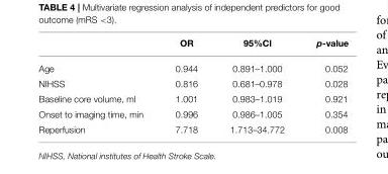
<table><thead><tr><td></td><td>OR</td><td>95%Cl</td><td>p-value</td></tr></thead><tbody><tr><td>Age</td><td>0.944</td><td>0.891–1.000</td><td>0.052</td></tr><tr><td>NIHSS</td><td>0.816</td><td>0.681–0.978</td><td>0.028</td></tr><tr><td>Baseline core volume, ml</td><td>1.001</td><td>0.983–1.019</td><td>0.921</td></tr><tr><td>Onset to imaging time, min</td><td>0.996</td><td>0.986–1.005</td><td>0.354</td></tr><tr><td>Reperfusion</td><td>7.718</td><td>1.713–34.772</td><td>0.008</td></tr></tbody></table>